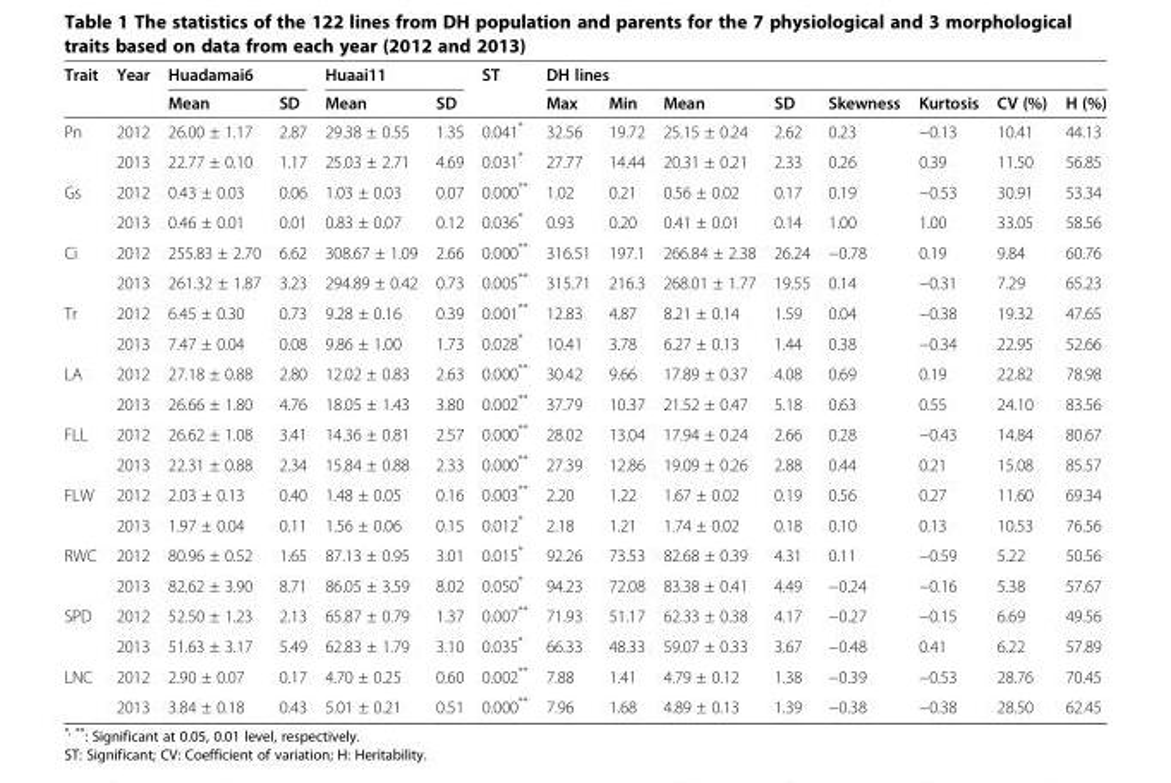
<table><thead><tr><td rowspan="2">Trait</td><td rowspan="2">Year</td><td colspan="2">Huadamai6</td><td colspan="2">Huaai11</td><td rowspan="2">ST</td><td colspan="8">DH lines</td></tr><tr><td>Mean</td><td>SD</td><td>Mean</td><td>SD</td><td>Max</td><td>Min</td><td>Mean</td><td>SD</td><td>Skewness</td><td>Kurtosis</td><td>CV (%)</td><td>H (%)</td></tr></thead><tbody><tr><td rowspan="2">Pn</td><td>2012</td><td>26.00 ± 1.17</td><td>2.87</td><td>29.38 ± 0.55</td><td>1.35</td><td>0.041*</td><td>32.56</td><td>19.72</td><td>25.15 ± 0.24</td><td>2.62</td><td>0.23</td><td>−0.13</td><td>10.41</td><td>44.13</td></tr><tr><td>2013</td><td>22.77 ± 0.10</td><td>1.17</td><td>25.03 ± 2.71</td><td>4.69</td><td>0.031*</td><td>27.77</td><td>14.44</td><td>20.31 ± 0.21</td><td>2.33</td><td>0.26</td><td>0.39</td><td>11.50</td><td>56.85</td></tr><tr><td rowspan="2">Gs</td><td>2012</td><td>0.43 ± 0.03</td><td>0.06</td><td>1.03 ± 0.03</td><td>0.07</td><td>0.000**</td><td>1.02</td><td>0.21</td><td>0.56 ± 0.02</td><td>0.17</td><td>0.19</td><td>−0.53</td><td>30.91</td><td>53.34</td></tr><tr><td>2013</td><td>0.46 ± 0.01</td><td>0.01</td><td>0.83 ± 0.07</td><td>0.12</td><td>0.036*</td><td>0.93</td><td>0.20</td><td>0.41 ± 0.01</td><td>0.14</td><td>1.00</td><td>1.00</td><td>33.05</td><td>58.56</td></tr><tr><td rowspan="2">Ci</td><td>2012</td><td>255.83 ± 2.70</td><td>6.62</td><td>308.67 ± 1.09</td><td>2.66</td><td>0.000**</td><td>316.51</td><td>197.1</td><td>266.84 ± 2.38</td><td>26.24</td><td>−0.78</td><td>0.19</td><td>9.84</td><td>60.76</td></tr><tr><td>2013</td><td>261.32 ± 1.87</td><td>3.23</td><td>294.89 ± 0.42</td><td>0.73</td><td>0.005**</td><td>315.71</td><td>216.3</td><td>268.01 ± 1.77</td><td>19.55</td><td>0.14</td><td>−0.31</td><td>7.29</td><td>65.23</td></tr><tr><td rowspan="2">Tr</td><td>2012</td><td>6.45 ± 0.30</td><td>0.73</td><td>9.28 ± 0.16</td><td>0.39</td><td>0.001**</td><td>12.83</td><td>4.87</td><td>8.21 ± 0.14</td><td>1.59</td><td>0.04</td><td>−0.38</td><td>19.32</td><td>47.65</td></tr><tr><td>2013</td><td>7.47 ± 0.04</td><td>0.08</td><td>9.86 ± 1.00</td><td>1.73</td><td>0.028*</td><td>10.41</td><td>3.78</td><td>6.27 ± 0.13</td><td>1.44</td><td>0.38</td><td>−0.34</td><td>22.95</td><td>52.66</td></tr><tr><td rowspan="2">LA</td><td>2012</td><td>27.18 ± 0.88</td><td>2.80</td><td>12.02 ± 0.83</td><td>2.63</td><td>0.000**</td><td>30.42</td><td>9.66</td><td>17.89 ± 0.37</td><td>4.08</td><td>0.69</td><td>0.19</td><td>22.82</td><td>78.98</td></tr><tr><td>2013</td><td>26.66 ± 1.80</td><td>4.76</td><td>18.05 ± 1.43</td><td>3.80</td><td>0.002**</td><td>37.79</td><td>10.37</td><td>21.52 ± 0.47</td><td>5.18</td><td>0.63</td><td>0.55</td><td>24.10</td><td>83.56</td></tr><tr><td rowspan="2">FLL</td><td>2012</td><td>26.62 ± 1.08</td><td>3.41</td><td>14.36 ± 0.81</td><td>2.57</td><td>0.000**</td><td>28.02</td><td>13.04</td><td>17.94 ± 0.24</td><td>2.66</td><td>0.28</td><td>−0.43</td><td>14.84</td><td>80.67</td></tr><tr><td>2013</td><td>22.31 ± 0.88</td><td>2.34</td><td>15.84 ± 0.88</td><td>2.33</td><td>0.000**</td><td>27.39</td><td>12.86</td><td>19.09 ± 0.26</td><td>2.88</td><td>0.44</td><td>0.21</td><td>15.08</td><td>85.57</td></tr><tr><td rowspan="2">FLW</td><td>2012</td><td>2.03 ± 0.13</td><td>0.40</td><td>1.48 ± 0.05</td><td>0.16</td><td>0.003**</td><td>2.20</td><td>1.22</td><td>1.67 ± 0.02</td><td>0.19</td><td>0.56</td><td>0.27</td><td>11.60</td><td>69.34</td></tr><tr><td>2013</td><td>1.97 ± 0.04</td><td>0.11</td><td>1.56 ± 0.06</td><td>0.15</td><td>0.012*</td><td>2.18</td><td>1.21</td><td>1.74 ± 0.02</td><td>0.18</td><td>0.10</td><td>0.13</td><td>10.53</td><td>76.56</td></tr><tr><td rowspan="2">RWC</td><td>2012</td><td>80.96 ± 0.52</td><td>1.65</td><td>87.13 ± 0.95</td><td>3.01</td><td>0.015*</td><td>92.26</td><td>73.53</td><td>82.68 ± 0.39</td><td>4.31</td><td>0.11</td><td>−0.59</td><td>5.22</td><td>50.56</td></tr><tr><td>2013</td><td>82.62 ± 3.90</td><td>8.71</td><td>86.05 ± 3.59</td><td>8.02</td><td>0.050*</td><td>94.23</td><td>72.08</td><td>83.38 ± 0.41</td><td>4.49</td><td>−0.24</td><td>−0.16</td><td>5.38</td><td>57.67</td></tr><tr><td rowspan="2">SPD</td><td>2012</td><td>52.50 ± 1.23</td><td>2.13</td><td>65.87 ± 0.79</td><td>1.37</td><td>0.007**</td><td>71.93</td><td>51.17</td><td>62.33 ± 0.38</td><td>4.17</td><td>−0.27</td><td>−0.15</td><td>6.69</td><td>49.56</td></tr><tr><td>2013</td><td>51.63 ± 3.17</td><td>5.49</td><td>62.83 ± 1.79</td><td>3.10</td><td>0.035*</td><td>66.33</td><td>48.33</td><td>59.07 ± 0.33</td><td>3.67</td><td>−0.48</td><td>0.41</td><td>6.22</td><td>57.89</td></tr><tr><td rowspan="2">LNC</td><td>2012</td><td>2.90 ± 0.07</td><td>0.17</td><td>4.70 ± 0.25</td><td>0.60</td><td>0.002**</td><td>7.88</td><td>1.41</td><td>4.79 ± 0.12</td><td>1.38</td><td>−0.39</td><td>−0.53</td><td>28.76</td><td>70.45</td></tr><tr><td>2013</td><td>3.84 ± 0.18</td><td>0.43</td><td>5.01 ± 0.21</td><td>0.51</td><td>0.000**</td><td>7.96</td><td>1.68</td><td>4.89 ± 0.13</td><td>1.39</td><td>−0.38</td><td>−0.38</td><td>28.50</td><td>62.45</td></tr></tbody></table>